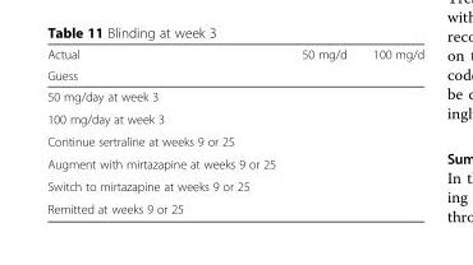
<table><thead><tr><td rowspan="2">Actual Guess</td><td rowspan="2">50 mg/d</td><td rowspan="2">100 mg/d</td></tr><tr></tr></thead><tbody><tr><td colspan="3">50 mg/day at week 3</td></tr><tr><td colspan="3">100 mg/day at week 3</td></tr><tr><td colspan="3">Continue sertraline at weeks 9 or 25</td></tr><tr><td colspan="3">Augment with mirtazapine at weeks 9 or 25</td></tr><tr><td colspan="3">Switch to mirtazapine at weeks 9 or 25</td></tr><tr><td>Remitted at weeks 9 or 25</td><td></td><td></td></tr></tbody></table>